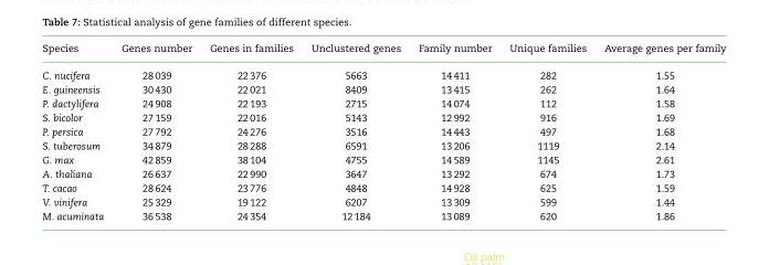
<table><thead><tr><td>Species</td><td>Genes number</td><td>Genes in families</td><td>Unclustered genes</td><td>Family number</td><td>Unique families</td><td>Average genes per family</td></tr></thead><tbody><tr><td>C. nucifera</td><td>28 039</td><td>22 376</td><td>5663</td><td>14 411</td><td>282</td><td>1.55</td></tr><tr><td>E. guineensis</td><td>30 430</td><td>22 021</td><td>8409</td><td>13 415</td><td>262</td><td>1.64</td></tr><tr><td>P. dactylifera</td><td>24 908</td><td>22 193</td><td>2715</td><td>14 074</td><td>112</td><td>1.58</td></tr><tr><td>S. bicolor</td><td>27 159</td><td>22 016</td><td>5143</td><td>12 992</td><td>916</td><td>1.69</td></tr><tr><td>P. persica</td><td>27 792</td><td>24 276</td><td>3516</td><td>14 443</td><td>497</td><td>1.68</td></tr><tr><td>S. tuberosum</td><td>34 879</td><td>28 288</td><td>6591</td><td>13 206</td><td>1119</td><td>2.14</td></tr><tr><td>G. max</td><td>42 859</td><td>38 104</td><td>4755</td><td>14 589</td><td>1145</td><td>2.61</td></tr><tr><td>A. thaliana</td><td>26 637</td><td>22 990</td><td>3647</td><td>13 292</td><td>674</td><td>1.73</td></tr><tr><td>T. cacao</td><td>28 624</td><td>23 776</td><td>4848</td><td>14 928</td><td>625</td><td>1.59</td></tr><tr><td>V. vinifera</td><td>25 329</td><td>19 122</td><td>6207</td><td>13 309</td><td>599</td><td>1.44</td></tr><tr><td>M. acuminata</td><td>36 538</td><td>24 354</td><td>12 184</td><td>13 089</td><td>620</td><td>1.86</td></tr></tbody></table>